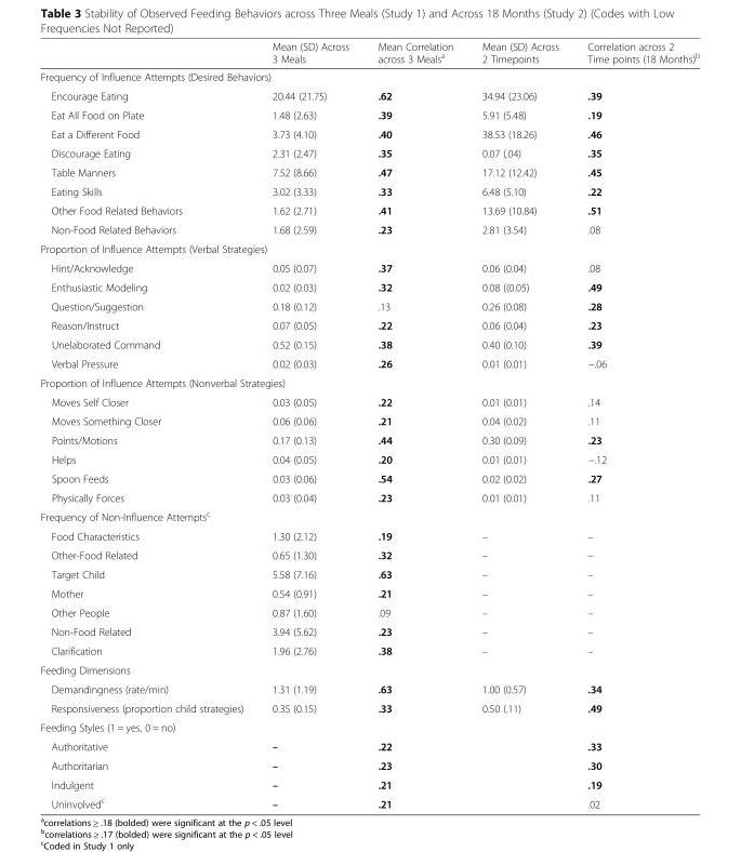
<table><thead><tr><td></td><td>Mean (SD) Across 3 Meals</td><td>Mean Correlation across 3 Meals<sup>a</sup></td><td>Mean (SD) Across 2 Timepoints</td><td>Correlation across 2 Time points (18 Months)<sup>b</sup></td></tr></thead><tbody><tr><td colspan="5">Frequency of Influence Attempts (Desired Behaviors)</td></tr><tr><td>Encourage Eating</td><td>20.44 (21.75)</td><td>.62</td><td>34.94 (23.06)</td><td>.39</td></tr><tr><td>Eat All Food on Plate</td><td>1.48 (2.63)</td><td>.39</td><td>5.91 (5.48)</td><td>.19</td></tr><tr><td>Eat a Different Food</td><td>3.73 (4.10)</td><td>.40</td><td>38.53 (18.26)</td><td>.46</td></tr><tr><td>Discourage Eating</td><td>2.31 (2.47)</td><td>.35</td><td>0.07 (.04)</td><td>.35</td></tr><tr><td>Table Manners</td><td>7.52 (8.66)</td><td>.47</td><td>17.12 (12.42)</td><td>.45</td></tr><tr><td>Eating Skills</td><td>3.02 (3.33)</td><td>.33</td><td>6.48 (5.10)</td><td>.22</td></tr><tr><td>Other Food Related Behaviors</td><td>1.62 (2.71)</td><td>.41</td><td>13.69 (10.84)</td><td>.51</td></tr><tr><td>Non-Food Related Behaviors</td><td>1.68 (2.59)</td><td>.23</td><td>2.81 (3.54)</td><td>.08</td></tr><tr><td colspan="5">Proportion of Influence Attempts (Verbal Strategies)</td></tr><tr><td>Hint/Acknowledge</td><td>0.05 (0.07)</td><td>.37</td><td>0.06 (0.04)</td><td>.08</td></tr><tr><td>Enthusiastic Modeling</td><td>0.02 (0.03)</td><td>.32</td><td>0.08 ((0.05)</td><td>.49</td></tr><tr><td>Question/Suggestion</td><td>0.18 (0.12)</td><td>.13</td><td>0.26 (0.08)</td><td>.28</td></tr><tr><td>Reason/Instruct</td><td>0.07 (0.05)</td><td>.22</td><td>0.06 (0.04)</td><td>.23</td></tr><tr><td>Unelaborated Command</td><td>0.52 (0.15)</td><td>.38</td><td>0.40 (0.10)</td><td>.39</td></tr><tr><td>Verbal Pressure</td><td>0.02 (0.03)</td><td>.26</td><td>0.01 (0.01)</td><td>−.06</td></tr><tr><td colspan="5">Proportion of Influence Attempts (Nonverbal Strategies)</td></tr><tr><td>Moves Self Closer</td><td>0.03 (0.05)</td><td>.22</td><td>0.01 (0.01)</td><td>.14</td></tr><tr><td>Moves Something Closer</td><td>0.06 (0.06)</td><td>.21</td><td>0.04 (0.02)</td><td>.11</td></tr><tr><td>Points/Motions</td><td>0.17 (0.13)</td><td>.44</td><td>0.30 (0.09)</td><td>.23</td></tr><tr><td>Helps</td><td>0.04 (0.05)</td><td>.20</td><td>0.01 (0.01)</td><td>−.12</td></tr><tr><td>Spoon Feeds</td><td>0.03 (0.06)</td><td>.54</td><td>0.02 (0.02)</td><td>.27</td></tr><tr><td>Physically Forces</td><td>0.03 (0.04)</td><td>.23</td><td>0.01 (0.01)</td><td>.11</td></tr><tr><td colspan="5">Frequency of Non-Influence Attempts<sup>c</sup></td></tr><tr><td>Food Characteristics</td><td>1.30 (2.12)</td><td>.19</td><td>–</td><td>–</td></tr><tr><td>Other-Food Related</td><td>0.65 (1.30)</td><td>.32</td><td>–</td><td>–</td></tr><tr><td>Target Child</td><td>5.58 (7.16)</td><td>.63</td><td>–</td><td>–</td></tr><tr><td>Mother</td><td>0.54 (0.91)</td><td>.21</td><td>–</td><td>–</td></tr><tr><td>Other People</td><td>0.87 (1.60)</td><td>.09</td><td>–</td><td>–</td></tr><tr><td>Non-Food Related</td><td>3.94 (5.62)</td><td>.23</td><td>–</td><td>–</td></tr><tr><td>Clarification</td><td>1.96 (2.76)</td><td>.38</td><td>–</td><td>–</td></tr><tr><td colspan="5">Feeding Dimensions</td></tr><tr><td>Demandingness (rate/min)</td><td>1.31 (1.19)</td><td>.63</td><td>1.00 (0.57)</td><td>.34</td></tr><tr><td>Responsiveness (proportion child strategies)</td><td>0.35 (0.15)</td><td>.33</td><td>0.50 (.11)</td><td>.49</td></tr><tr><td colspan="5">Feeding Styles (1 = yes, 0 = no)</td></tr><tr><td>Authoritative</td><td>–</td><td>.22</td><td></td><td>.33</td></tr><tr><td>Authoritarian</td><td>–</td><td>.23</td><td></td><td>.30</td></tr><tr><td>Indulgent</td><td>–</td><td>.21</td><td></td><td>.19</td></tr><tr><td>Uninvolved<sup>c</sup></td><td>–</td><td>.21</td><td></td><td>.02</td></tr></tbody></table>